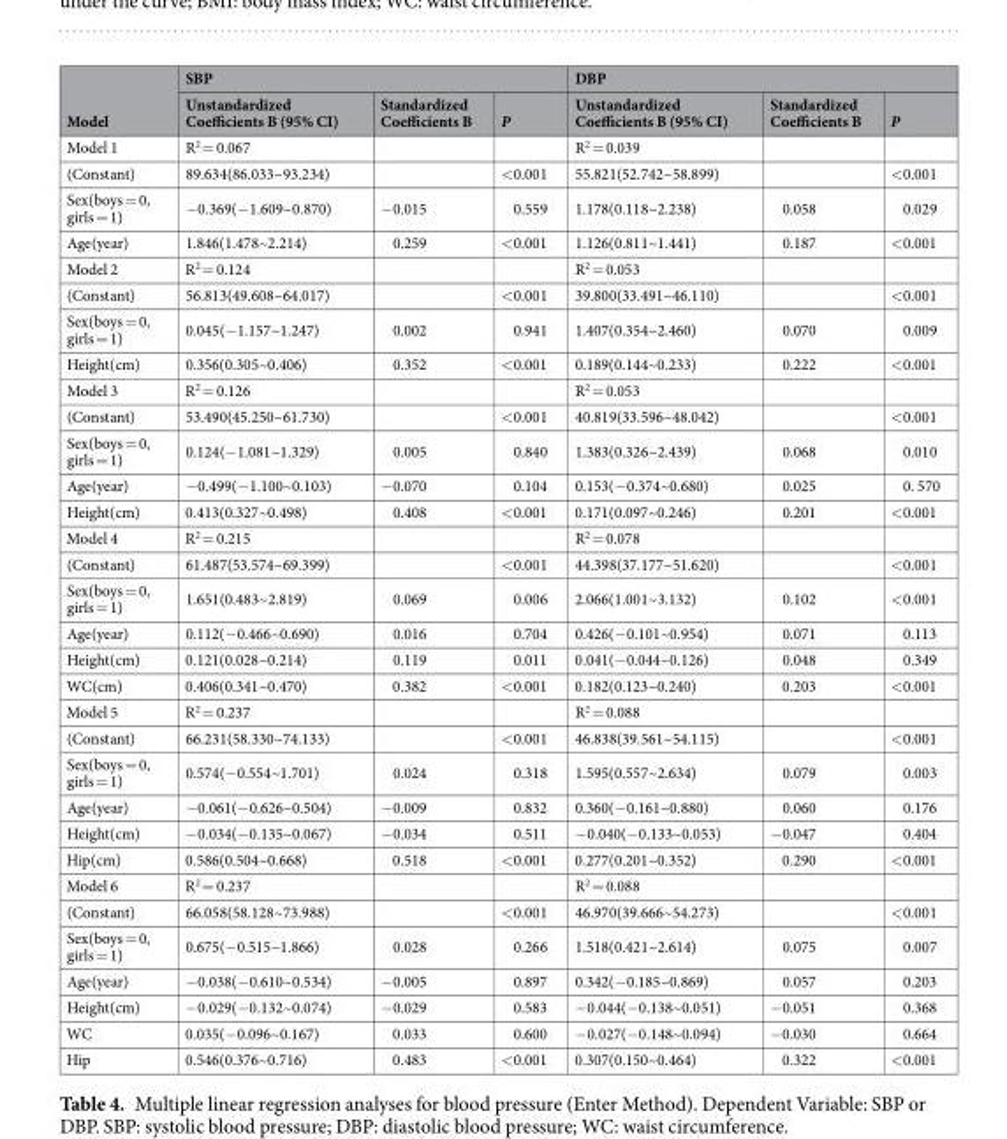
<table><thead><tr><td rowspan="2">Model</td><td colspan="3">SBP</td><td colspan="3">DBP</td></tr><tr><td>Unstandardized Coefficients B (95% CI)</td><td>Standardized Coefficients B</td><td>P</td><td>Unstandardized Coefficients B (95% CI)</td><td>Standardized Coefficients B</td><td>P</td></tr></thead><tbody><tr><td>Model 1</td><td>R<sup>2</sup> = 0.067</td><td></td><td></td><td>R<sup>2</sup> = 0.039</td><td></td><td></td></tr><tr><td>(Constant)</td><td>89.634(86.033~93.234)</td><td></td><td>&lt;0.001</td><td>55.821(52.742~58.899)</td><td></td><td>&lt;0.001</td></tr><tr><td>Sex(boys = 0, girls = 1)</td><td>−0.369(−1.609~0.870)</td><td>−0.015</td><td>0.559</td><td>1.178(0.118~2.238)</td><td>0.058</td><td>0.029</td></tr><tr><td>Age(year)</td><td>1.846(1.478~2.214)</td><td>0.259</td><td>&lt;0.001</td><td>1.126(0.811~1.441)</td><td>0.187</td><td>&lt;0.001</td></tr><tr><td>Model 2</td><td>R<sup>2</sup> = 0.124</td><td></td><td></td><td>R<sup>2</sup> = 0.053</td><td></td><td></td></tr><tr><td>(Constant)</td><td>56.813(49.608~64.017)</td><td></td><td>&lt;0.001</td><td>39.800(33.491~46.110)</td><td></td><td>&lt;0.001</td></tr><tr><td>Sex(boys = 0, girls = 1)</td><td>0.045(−1.157~1.247)</td><td>0.002</td><td>0.941</td><td>1.407(0.354~2.460)</td><td>0.070</td><td>0.009</td></tr><tr><td>Height(cm)</td><td>0.356(0.305~0.406)</td><td>0.352</td><td>&lt;0.001</td><td>0.189(0.144~0.233)</td><td>0.222</td><td>&lt;0.001</td></tr><tr><td>Model 3</td><td>R<sup>2</sup> = 0.126</td><td></td><td></td><td>R<sup>2</sup> = 0.053</td><td></td><td></td></tr><tr><td>(Constant)</td><td>53.490(45.250~61.730)</td><td></td><td>&lt;0.001</td><td>40.819(33.596~48.042)</td><td></td><td>&lt;0.001</td></tr><tr><td>Sex(boys = 0, girls = 1)</td><td>0.124(−1.081~1.329)</td><td>0.005</td><td>0.840</td><td>1.383(0.326~2.439)</td><td>0.068</td><td>0.010</td></tr><tr><td>Age(year)</td><td>−0.499(−1.100~0.103)</td><td>−0.070</td><td>0.104</td><td>0.153(−0.374~0.680)</td><td>0.025</td><td>0. 570</td></tr><tr><td>Height(cm)</td><td>0.413(0.327~0.498)</td><td>0.408</td><td>&lt;0.001</td><td>0.171(0.097~0.246)</td><td>0.201</td><td>&lt;0.001</td></tr><tr><td>Model 4</td><td>R<sup>2</sup> = 0.215</td><td></td><td></td><td>R<sup>2</sup> = 0.078</td><td></td><td></td></tr><tr><td>(Constant)</td><td>61.487(53.574~69.399)</td><td></td><td>&lt;0.001</td><td>44.398(37.177~51.620)</td><td></td><td>&lt;0.001</td></tr><tr><td>Sex(boys = 0, girls = 1)</td><td>1.651(0.483~2.819)</td><td>0.069</td><td>0.006</td><td>2.066(1.001~3.132)</td><td>0.102</td><td>&lt;0.001</td></tr><tr><td>Age(year)</td><td>0.112(−0.466~0.690)</td><td>0.016</td><td>0.704</td><td>0.426(−0.101~0.954)</td><td>0.071</td><td>0.113</td></tr><tr><td>Height(cm)</td><td>0.121(0.028~0.214)</td><td>0.119</td><td>0.011</td><td>0.041(−0.044~0.126)</td><td>0.048</td><td>0.349</td></tr><tr><td>WC(cm)</td><td>0.406(0.341~0.470)</td><td>0.382</td><td>&lt;0.001</td><td>0.182(0.123~0.240)</td><td>0.203</td><td>&lt;0.001</td></tr><tr><td>Model 5</td><td>R<sup>2</sup> = 0.237</td><td></td><td></td><td>R<sup>2</sup> = 0.088</td><td></td><td></td></tr><tr><td>(Constant)</td><td>66.231(58.330~74.133)</td><td></td><td>&lt;0.001</td><td>46.838(39.561~54.115)</td><td></td><td>&lt;0.001</td></tr><tr><td>Sex(boys = 0, girls = 1)</td><td>0.574(−0.554~1.701)</td><td>0.024</td><td>0.318</td><td>1.595(0.557~2.634)</td><td>0.079</td><td>0.003</td></tr><tr><td>Age(year)</td><td>−0.061(−0.626~0.504)</td><td>−0.009</td><td>0.832</td><td>0.360(−0.161~0.880)</td><td>0.060</td><td>0.176</td></tr><tr><td>Height(cm)</td><td>−0.034(−0.135~0.067)</td><td>−0.034</td><td>0.511</td><td>−0.040(−0.133~0.053)</td><td>−0.047</td><td>0.404</td></tr><tr><td>Hip(cm)</td><td>0.586(0.504~0.668)</td><td>0.518</td><td>&lt;0.001</td><td>0.277(0.201~0.352)</td><td>0.290</td><td>&lt;0.001</td></tr><tr><td>Model 6</td><td>R<sup>2</sup> = 0.237</td><td></td><td></td><td>R<sup>2</sup> = 0.088</td><td></td><td></td></tr><tr><td>(Constant)</td><td>66.058(58.128~73.988)</td><td></td><td>&lt;0.001</td><td>46.970(39.666~54.273)</td><td></td><td>&lt;0.001</td></tr><tr><td>Sex(boys = 0, girls = 1)</td><td>0.675(−0.515~1.866)</td><td>0.028</td><td>0.266</td><td>1.518(0.421~2.614)</td><td>0.075</td><td>0.007</td></tr><tr><td>Age(year)</td><td>−0.038(−0.610~0.534)</td><td>−0.005</td><td>0.897</td><td>0.342(−0.185~0.869)</td><td>0.057</td><td>0.203</td></tr><tr><td>Height(cm)</td><td>−0.029(−0.132~0.074)</td><td>−0.029</td><td>0.583</td><td>−0.044(−0.138~0.051)</td><td>−0.051</td><td>0.368</td></tr><tr><td>WC</td><td>0.035(−0.096~0.167)</td><td>0.033</td><td>0.600</td><td>−0.027(−0.148~0.094)</td><td>−0.030</td><td>0.664</td></tr><tr><td>Hip</td><td>0.546(0.376~0.716)</td><td>0.483</td><td>&lt;0.001</td><td>0.307(0.150~0.464)</td><td>0.322</td><td>&lt;0.001</td></tr></tbody></table>